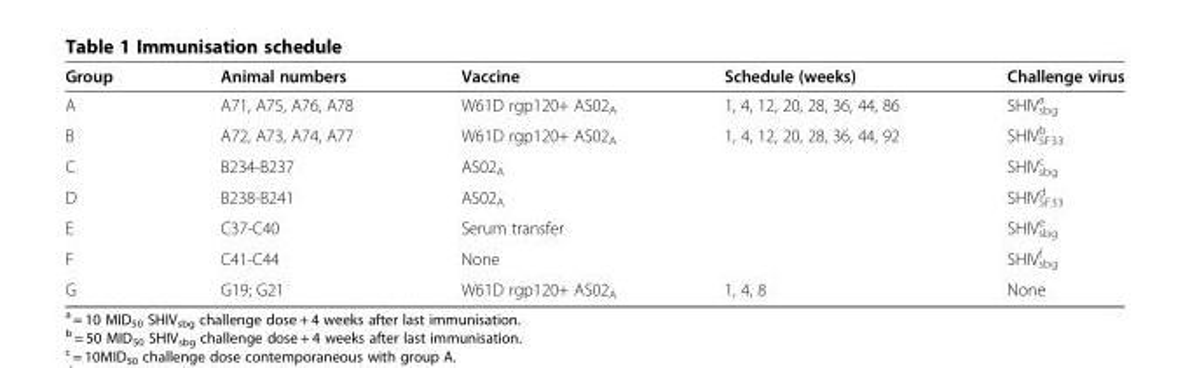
<table><thead><tr><td>Group</td><td>Animal numbers</td><td>Vaccine</td><td>Schedule (weeks)</td><td>Challenge virus</td></tr></thead><tbody><tr><td>A</td><td>A71, A75, A76, A78</td><td>W61D rgp120+ AS02<sub>A</sub></td><td>1, 4, 12, 20, 28, 36, 44, 86</td><td>SHIV<sub>sbg</sub> <sup>a</sup></td></tr><tr><td>B</td><td>A72, A73, A74, A77</td><td>W61D rgp120+ AS02<sub>A</sub></td><td>1, 4, 12, 20, 28, 36, 44, 92</td><td>SHIV<sub>SF33</sub> <sup>b</sup></td></tr><tr><td>C</td><td>B234-B237</td><td>AS02<sub>A</sub></td><td></td><td>SHIV<sub>sbg</sub> <sup>c</sup></td></tr><tr><td>D</td><td>B238-B241</td><td>AS02<sub>A</sub></td><td></td><td>SHIV<sub>SF33</sub> <sup>d</sup></td></tr><tr><td>E</td><td>C37-C40</td><td>Serum transfer</td><td></td><td>SHIV<sub>sbg</sub> <sup>e</sup></td></tr><tr><td>F</td><td>C41-C44</td><td>None</td><td></td><td>SHIV<sub>sbg</sub> <sup>f</sup></td></tr><tr><td>G</td><td>G19; G21</td><td>W61D rgp120+ AS02<sub>A</sub></td><td>1, 4, 8</td><td>None</td></tr></tbody></table>